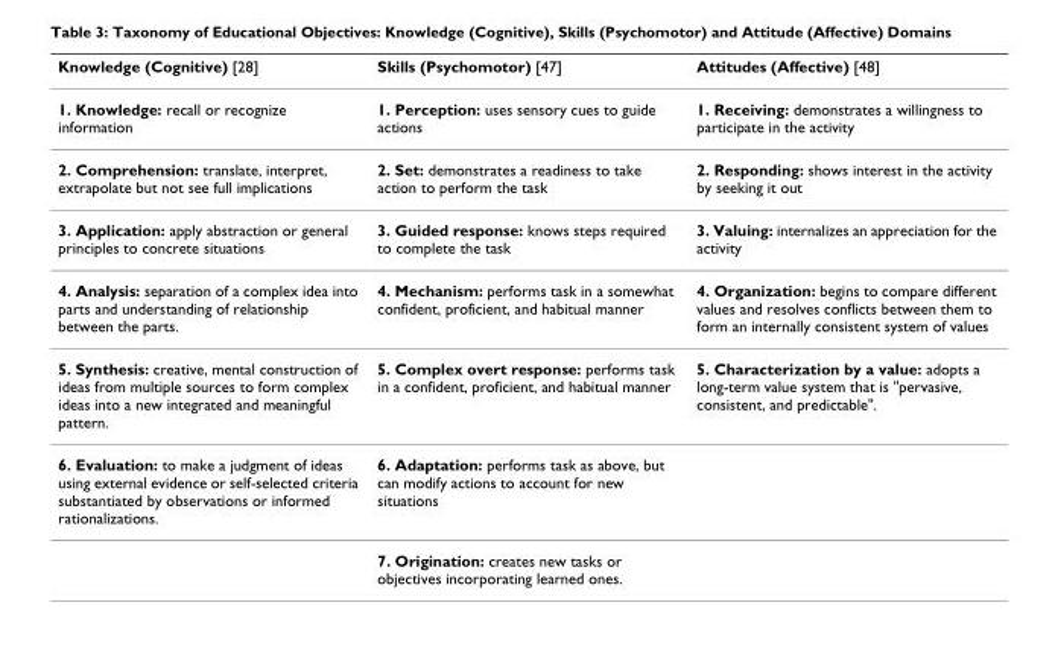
<table><thead><tr><td>Knowledge (Cognitive) [28]</td><td>Skills (Psychomotor) [47]</td><td>Attitudes (Affective) [48]</td></tr></thead><tbody><tr><td>1. Knowledge: recall or recognize information</td><td>1. Perception: uses sensory cues to guide actions</td><td>1. Receiving: demonstrates a willingness to participate in the activity</td></tr><tr><td>2. Comprehension: translate, interpret, extrapolate but not see full implications</td><td>2. Set: demonstrates a readiness to take action to perform the task</td><td>2. Responding: shows interest in the activity by seeking it out</td></tr><tr><td>3. Application: apply abstraction or general principles to concrete situations</td><td>3. Guided response: knows steps required to complete the task</td><td>3. Valuing: internalizes an appreciation for the activity</td></tr><tr><td>4. Analysis: separation of a complex idea into parts and understanding of relationship between the parts.</td><td>4. Mechanism: performs task in a somewhat confident, proficient, and habitual manner</td><td>4. Organization: begins to compare different values and resolves conflicts between them to form an internally consistent system of values</td></tr><tr><td>5. Synthesis: creative, mental construction of ideas from multiple sources to form complex ideas into a new integrated and meaningful pattern.</td><td>5. Complex overt response: performs task in a confident, proficient, and habitual manner</td><td>5. Characterization by a value: adopts a long-term value system that is &quot;pervasive, consistent, and predictable&quot;.</td></tr><tr><td rowspan="2">6. Evaluation: to make a judgment of ideas using external evidence or self-selected criteria substantiated by observations or informed rationalizations.</td><td>6. Adaptation: performs task as above, but can modify actions to account for new situations</td><td></td></tr><tr><td>7. Origination: creates new tasks or objectives incorporating learned ones.</td><td></td></tr></tbody></table>